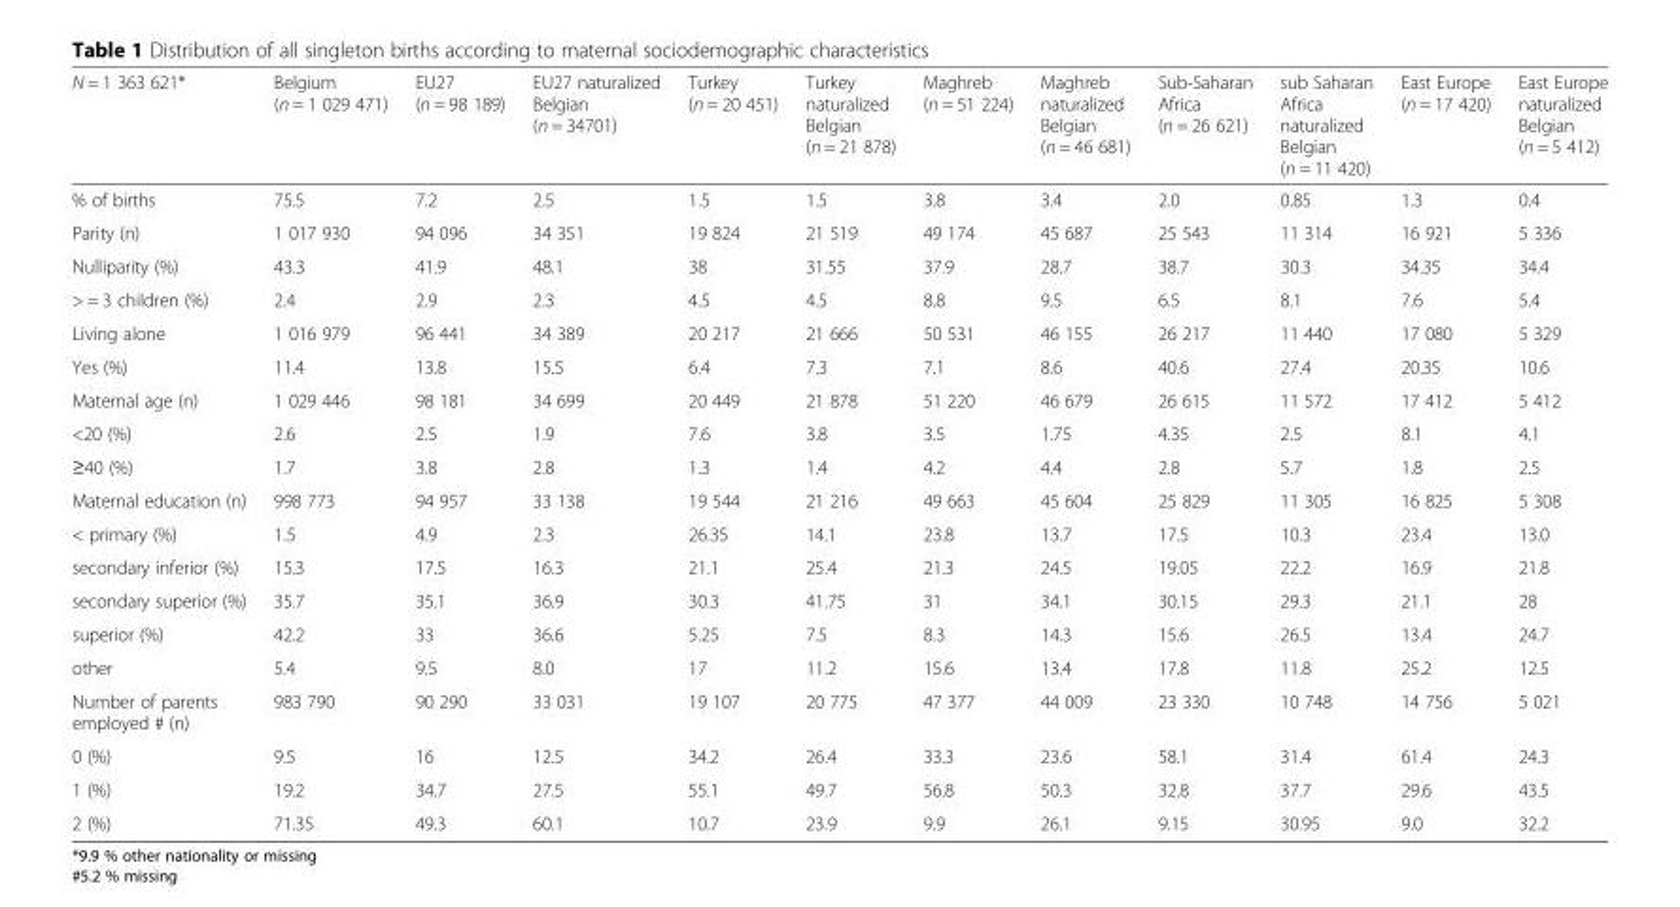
<table><thead><tr><td>N = 1 363 621*</td><td>Belgium (n = 1 029 471)</td><td>EU27 (n = 98 189)</td><td>EU27 naturalized Belgian (n = 34701)</td><td>Turkey (n = 20 451)</td><td>Turkey naturalized Belgian (n = 21 878)</td><td>Maghreb (n = 51 224)</td><td>Maghreb naturalized Belgian (n = 46 681)</td><td>Sub-Saharan Africa (n = 26 621)</td><td>sub Saharan Africa naturalized Belgian (n = 11 420)</td><td>East Europe (n = 17 420)</td><td>East Europe naturalized Belgian (n = 5 412)</td></tr></thead><tbody><tr><td>% of births</td><td>75.5</td><td>7.2</td><td>2.5</td><td>1.5</td><td>1.5</td><td>3.8</td><td>3.4</td><td>2.0</td><td>0.85</td><td>1.3</td><td>0.4</td></tr><tr><td>Parity (n)</td><td>1 017 930</td><td>94 096</td><td>34 351</td><td>19 824</td><td>21 519</td><td>49 174</td><td>45 687</td><td>25 543</td><td>11 314</td><td>16 921</td><td>5 336</td></tr><tr><td>Nulliparity (%)</td><td>43.3</td><td>41.9</td><td>48.1</td><td>38</td><td>31.55</td><td>37.9</td><td>28.7</td><td>38.7</td><td>30.3</td><td>34.35</td><td>34.4</td></tr><tr><td>&gt; = 3 children (%)</td><td>2.4</td><td>2.9</td><td>2.3</td><td>4.5</td><td>4.5</td><td>8.8</td><td>9.5</td><td>6.5</td><td>8.1</td><td>7.6</td><td>5.4</td></tr><tr><td>Living alone</td><td>1 016 979</td><td>96 441</td><td>34 389</td><td>20 217</td><td>21 666</td><td>50 531</td><td>46 155</td><td>26 217</td><td>11 440</td><td>17 080</td><td>5 329</td></tr><tr><td>Yes (%)</td><td>11.4</td><td>13.8</td><td>15.5</td><td>6.4</td><td>7.3</td><td>7.1</td><td>8.6</td><td>40.6</td><td>27.4</td><td>20.35</td><td>10.6</td></tr><tr><td>Maternal age (n)</td><td>1 029 446</td><td>98 181</td><td>34 699</td><td>20 449</td><td>21 878</td><td>51 220</td><td>46 679</td><td>26 615</td><td>11 572</td><td>17 412</td><td>5 412</td></tr><tr><td>&lt;20 (%)</td><td>2.6</td><td>2.5</td><td>1.9</td><td>7.6</td><td>3.8</td><td>3.5</td><td>1.75</td><td>4.35</td><td>2.5</td><td>8.1</td><td>4.1</td></tr><tr><td>≥40 (%)</td><td>1.7</td><td>3.8</td><td>2.8</td><td>1.3</td><td>1.4</td><td>4.2</td><td>4.4</td><td>2.8</td><td>5.7</td><td>1.8</td><td>2.5</td></tr><tr><td>Maternal education (n)</td><td>998 773</td><td>94 957</td><td>33 138</td><td>19 544</td><td>21 216</td><td>49 663</td><td>45 604</td><td>25 829</td><td>11 305</td><td>16 825</td><td>5 308</td></tr><tr><td>&lt; primary (%)</td><td>1.5</td><td>4.9</td><td>2.3</td><td>26.35</td><td>14.1</td><td>23.8</td><td>13.7</td><td>17.5</td><td>10.3</td><td>23.4</td><td>13.0</td></tr><tr><td>secondary inferior (%)</td><td>15.3</td><td>17.5</td><td>16.3</td><td>21.1</td><td>25.4</td><td>21.3</td><td>24.5</td><td>19.05</td><td>22.2</td><td>16.9</td><td>21.8</td></tr><tr><td>secondary superior (%)</td><td>35.7</td><td>35.1</td><td>36.9</td><td>30.3</td><td>41.75</td><td>31</td><td>34.1</td><td>30.15</td><td>29.3</td><td>21.1</td><td>28</td></tr><tr><td>superior (%)</td><td>42.2</td><td>33</td><td>36.6</td><td>5.25</td><td>7.5</td><td>8.3</td><td>14.3</td><td>15.6</td><td>26.5</td><td>13.4</td><td>24.7</td></tr><tr><td>other</td><td>5.4</td><td>9.5</td><td>8.0</td><td>17</td><td>11.2</td><td>15.6</td><td>13.4</td><td>17.8</td><td>11.8</td><td>25.2</td><td>12.5</td></tr><tr><td>Number of parents employed # (n)</td><td>983 790</td><td>90 290</td><td>33 031</td><td>19 107</td><td>20 775</td><td>47 377</td><td>44 009</td><td>23 330</td><td>10 748</td><td>14 756</td><td>5 021</td></tr><tr><td>0 (%)</td><td>9.5</td><td>16</td><td>12.5</td><td>34.2</td><td>26.4</td><td>33.3</td><td>23.6</td><td>58.1</td><td>31.4</td><td>61.4</td><td>24.3</td></tr><tr><td>1 (%)</td><td>19.2</td><td>34.7</td><td>27.5</td><td>55.1</td><td>49.7</td><td>56.8</td><td>50.3</td><td>32.8</td><td>37.7</td><td>29.6</td><td>43.5</td></tr><tr><td>2 (%)</td><td>71.35</td><td>49.3</td><td>60.1</td><td>10.7</td><td>23.9</td><td>9.9</td><td>26.1</td><td>9.15</td><td>30.95</td><td>9.0</td><td>32.2</td></tr></tbody></table>